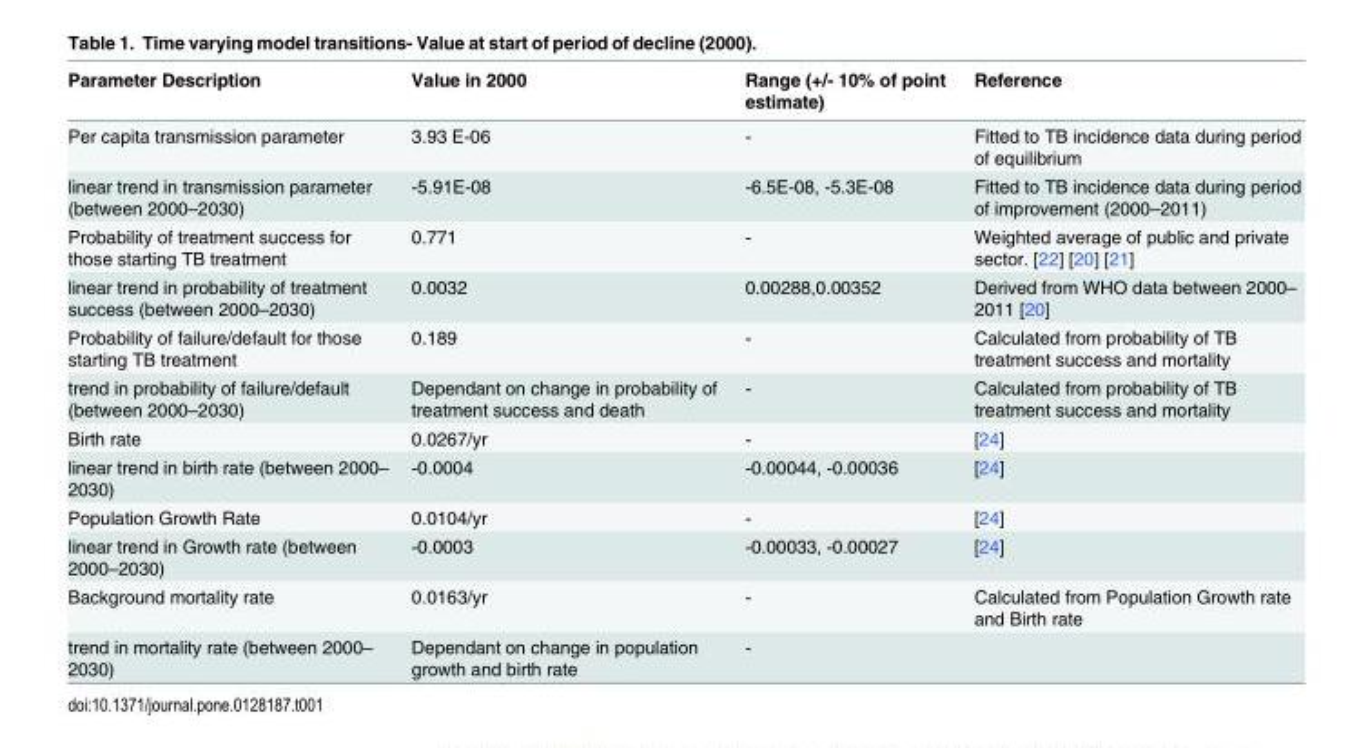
<table><thead><tr><td>Parameter Description</td><td>Value in 2000</td><td>Range (+/- 10% of point estimate)</td><td>Reference</td></tr></thead><tbody><tr><td>Per capita transmission parameter</td><td>3.93 E-06</td><td>-</td><td>Fitted to TB incidence data during period of equilibrium</td></tr><tr><td>linear trend in transmission parameter (between 2000–2030)</td><td>-5.91E-08</td><td>-6.5E-08, -5.3E-08</td><td>Fitted to TB incidence data during period of improvement (2000–2011)</td></tr><tr><td>Probability of treatment success for those starting TB treatment</td><td>0.771</td><td>-</td><td>Weighted average of public and private sector. [22] [20] [21]</td></tr><tr><td>linear trend in probability of treatment success (between 2000–2030)</td><td>0.0032</td><td>0.00288,0.00352</td><td>Derived from WHO data between 2000– 2011 [20]</td></tr><tr><td>Probability of failure/default for those starting TB treatment</td><td>0.189</td><td>-</td><td>Calculated from probability of TB treatment success and mortality</td></tr><tr><td>trend in probability of failure/default (between 2000–2030)</td><td>Dependant on change in probability of treatment success and death</td><td>-</td><td>Calculated from probability of TB treatment success and mortality</td></tr><tr><td>Birth rate</td><td>0.0267/yr</td><td>-</td><td>[24]</td></tr><tr><td>linear trend in birth rate (between 2000– 2030)</td><td>-0.0004</td><td>-0.00044, -0.00036</td><td>[24]</td></tr><tr><td>Population Growth Rate</td><td>0.0104/yr</td><td>-</td><td>[24]</td></tr><tr><td>linear trend in Growth rate (between 2000–2030)</td><td>-0.0003</td><td>-0.00033, -0.00027</td><td>[24]</td></tr><tr><td>Background mortality rate</td><td>0.0163/yr</td><td>-</td><td>Calculated from Population Growth rate and Birth rate</td></tr><tr><td>trend in mortality rate (between 2000– 2030)</td><td>Dependant on change in population growth and birth rate</td><td>-</td><td></td></tr></tbody></table>